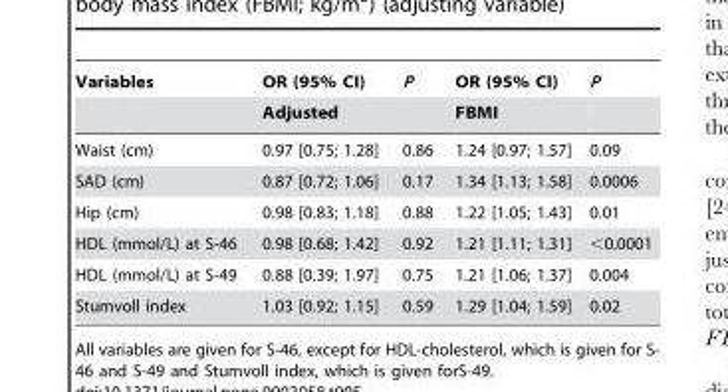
<table><thead><tr><td rowspan="2">Variables</td><td rowspan="2">OR (95% CI) Adjusted</td><td rowspan="2">P</td><td rowspan="2">OR (95% CI) FBMI</td><td rowspan="2">P</td></tr><tr></tr></thead><tbody><tr><td>Waist (cm)</td><td>0.97 [0.75; 1.28]</td><td>0.86</td><td>1.24 [0.97; 1.57]</td><td>0.09</td></tr><tr><td>SAD (cm)</td><td>0.87 [0.72; 1.06]</td><td>0.17</td><td>1.34 [1.13; 1.58]</td><td>0.0006</td></tr><tr><td>Hip (cm)</td><td>0.98 [0.83; 1.18]</td><td>0.88</td><td>1.22 [1.05; 1.43]</td><td>0.01</td></tr><tr><td>HDL (mmol/L) at S-46</td><td>0.98 [0.68; 1.42]</td><td>0.92</td><td>1.21 [1.11; 1.31]</td><td>&lt;0.0001</td></tr><tr><td>HDL (mmol/L) at S-49</td><td>0.88 [0.39; 1.97]</td><td>0.75</td><td>1.21 [1.06; 1.37]</td><td>0.004</td></tr><tr><td>Stumvoll index</td><td>1.03 [0.92; 1.15]</td><td>0.59</td><td>1.29 [1.04; 1.59]</td><td>0.02</td></tr></tbody></table>